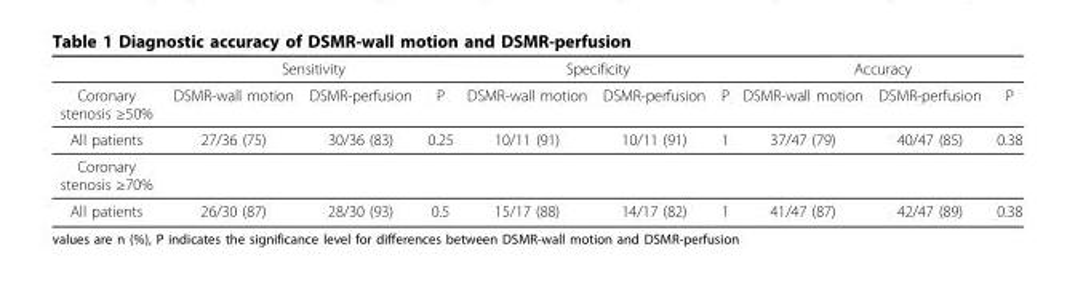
<table><thead><tr><td rowspan="2">Coronary stenosis ≥50%</td><td colspan="3">Sensitivity</td><td colspan="3">Specificity</td><td colspan="3">Accuracy</td></tr><tr><td>DSMR-wall motion</td><td>DSMR-perfusion</td><td>P</td><td>DSMR-wall motion</td><td>DSMR-perfusion</td><td>P</td><td>DSMR-wall motion</td><td>DSMR-perfusion</td><td>P</td></tr></thead><tbody><tr><td>All patients</td><td>27/36 (75)</td><td>30/36 (83)</td><td>0.25</td><td>10/11 (91)</td><td>10/11 (91)</td><td>1</td><td>37/47 (79)</td><td>40/47 (85)</td><td>0.38</td></tr><tr><td colspan="10">Coronary stenosis ≥70%</td></tr><tr><td>All patients</td><td>26/30 (87)</td><td>28/30 (93)</td><td>0.5</td><td>15/17 (88)</td><td>14/17 (82)</td><td>1</td><td>41/47 (87)</td><td>42/47 (89)</td><td>0.38</td></tr></tbody></table>